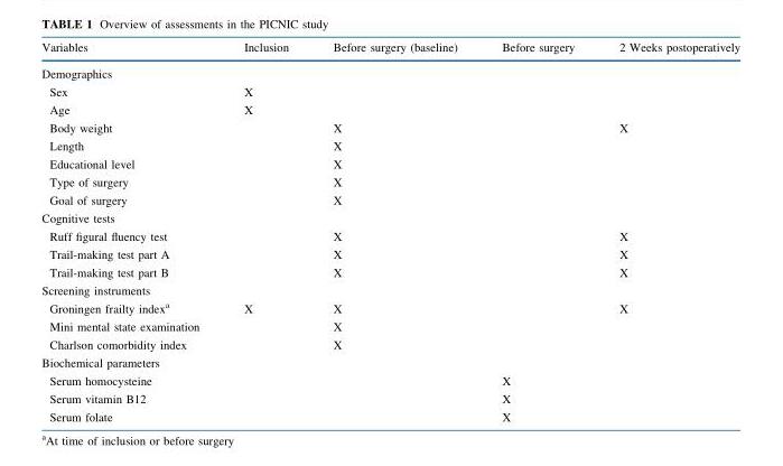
<table><thead><tr><td>Variables</td><td>Inclusion</td><td>Before surgery (baseline)</td><td>Before surgery</td><td>2 Weeks postoperatively</td></tr></thead><tbody><tr><td colspan="5">Demographics</td></tr><tr><td>Sex</td><td>X</td><td></td><td></td><td></td></tr><tr><td>Age</td><td>X</td><td></td><td></td><td></td></tr><tr><td>Body weight</td><td></td><td>X</td><td></td><td>X</td></tr><tr><td>Length</td><td></td><td>X</td><td></td><td></td></tr><tr><td>Educational level</td><td></td><td>X</td><td></td><td></td></tr><tr><td>Type of surgery</td><td></td><td>X</td><td></td><td></td></tr><tr><td>Goal of surgery</td><td></td><td>X</td><td></td><td></td></tr><tr><td colspan="5">Cognitive tests</td></tr><tr><td>Ruff figural fluency test</td><td></td><td>X</td><td></td><td>X</td></tr><tr><td>Trail-making test part A</td><td></td><td>X</td><td></td><td>X</td></tr><tr><td>Trail-making test part B</td><td></td><td>X</td><td></td><td>X</td></tr><tr><td colspan="5">Screening instruments</td></tr><tr><td>Groningen frailty index<sup>a</sup></td><td>X</td><td>X</td><td></td><td>X</td></tr><tr><td>Mini mental state examination</td><td></td><td>X</td><td></td><td></td></tr><tr><td>Charlson comorbidity index</td><td></td><td>X</td><td></td><td></td></tr><tr><td colspan="5">Biochemical parameters</td></tr><tr><td>Serum homocysteine</td><td></td><td></td><td>X</td><td></td></tr><tr><td>Serum vitamin B12</td><td></td><td></td><td>X</td><td></td></tr><tr><td>Serum folate</td><td></td><td></td><td>X</td><td></td></tr></tbody></table>